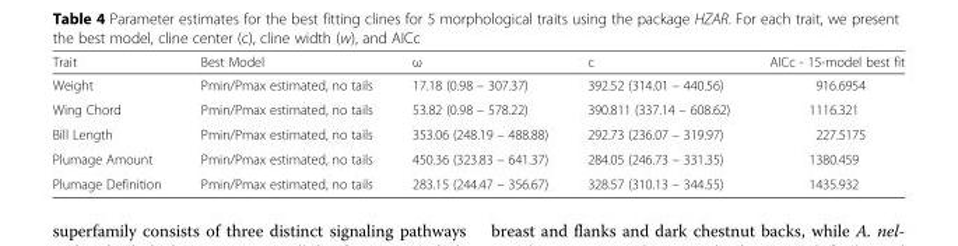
<table><thead><tr><td>Trait</td><td>Best Model</td><td>ω</td><td>c</td><td>AICc - 15-model best fit</td></tr></thead><tbody><tr><td>Weight</td><td>Pmin/Pmax estimated, no tails</td><td>17.18 (0.98 – 307.37)</td><td>392.52 (314.01 – 440.56)</td><td>916.6954</td></tr><tr><td>Wing Chord</td><td>Pmin/Pmax estimated, no tails</td><td>53.82 (0.98 – 578.22)</td><td>390.811 (337.14 – 608.62)</td><td>1116.321</td></tr><tr><td>Bill Length</td><td>Pmin/Pmax estimated, no tails</td><td>353.06 (248.19 – 488.88)</td><td>292.73 (236.07 – 319.97)</td><td>227.5175</td></tr><tr><td>Plumage Amount</td><td>Pmin/Pmax estimated, no tails</td><td>450.36 (323.83 – 641.37)</td><td>284.05 (246.73 – 331.35)</td><td>1380.459</td></tr><tr><td>Plumage Definition</td><td>Pmin/Pmax estimated, no tails</td><td>283.15 (244.47 – 356.67)</td><td>328.57 (310.13 – 344.55)</td><td>1435.932</td></tr></tbody></table>